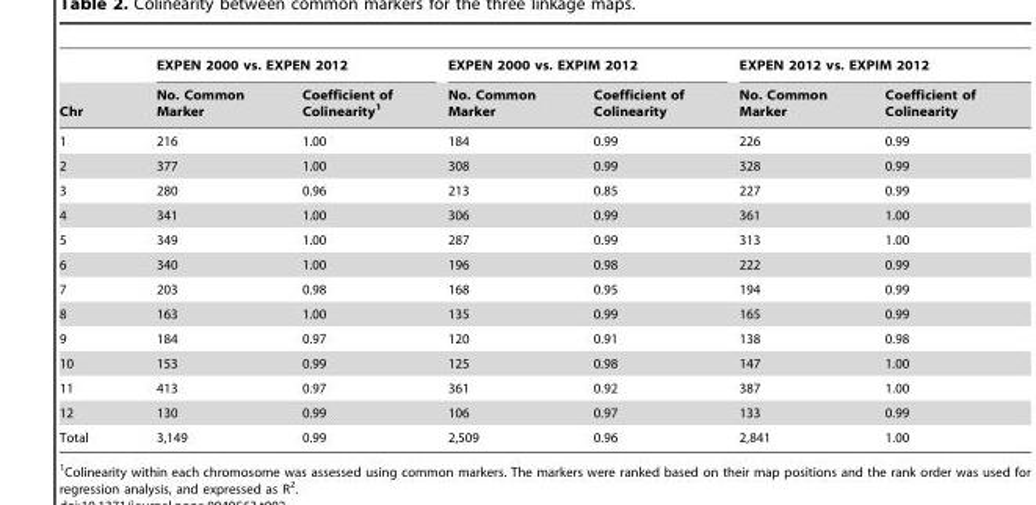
<table><thead><tr><td rowspan="2">Chr</td><td colspan="2">EXPEN 2000 vs. EXPEN 2012</td><td colspan="2">EXPEN 2000 vs. EXPIM 2012</td><td colspan="2">EXPEN 2012 vs. EXPIM 2012</td></tr><tr><td>No. Common Marker</td><td>Coefficient of Colinearity<sup>1</sup></td><td>No. Common Marker</td><td>Coefficient of Colinearity</td><td>No. Common Marker</td><td>Coefficient of Colinearity</td></tr></thead><tbody><tr><td>1</td><td>216</td><td>1.00</td><td>184</td><td>0.99</td><td>226</td><td>0.99</td></tr><tr><td>2</td><td>377</td><td>1.00</td><td>308</td><td>0.99</td><td>328</td><td>0.99</td></tr><tr><td>3</td><td>280</td><td>0.96</td><td>213</td><td>0.85</td><td>227</td><td>0.99</td></tr><tr><td>4</td><td>341</td><td>1.00</td><td>306</td><td>0.99</td><td>361</td><td>1.00</td></tr><tr><td>5</td><td>349</td><td>1.00</td><td>287</td><td>0.99</td><td>313</td><td>1.00</td></tr><tr><td>6</td><td>340</td><td>1.00</td><td>196</td><td>0.98</td><td>222</td><td>0.99</td></tr><tr><td>7</td><td>203</td><td>0.98</td><td>168</td><td>0.95</td><td>194</td><td>0.99</td></tr><tr><td>8</td><td>163</td><td>1.00</td><td>135</td><td>0.99</td><td>165</td><td>0.99</td></tr><tr><td>9</td><td>184</td><td>0.97</td><td>120</td><td>0.91</td><td>138</td><td>0.98</td></tr><tr><td>10</td><td>153</td><td>0.99</td><td>125</td><td>0.98</td><td>147</td><td>1.00</td></tr><tr><td>11</td><td>413</td><td>0.97</td><td>361</td><td>0.92</td><td>387</td><td>1.00</td></tr><tr><td>12</td><td>130</td><td>0.99</td><td>106</td><td>0.97</td><td>133</td><td>0.99</td></tr><tr><td>Total</td><td>3,149</td><td>0.99</td><td>2,509</td><td>0.96</td><td>2,841</td><td>1.00</td></tr></tbody></table>